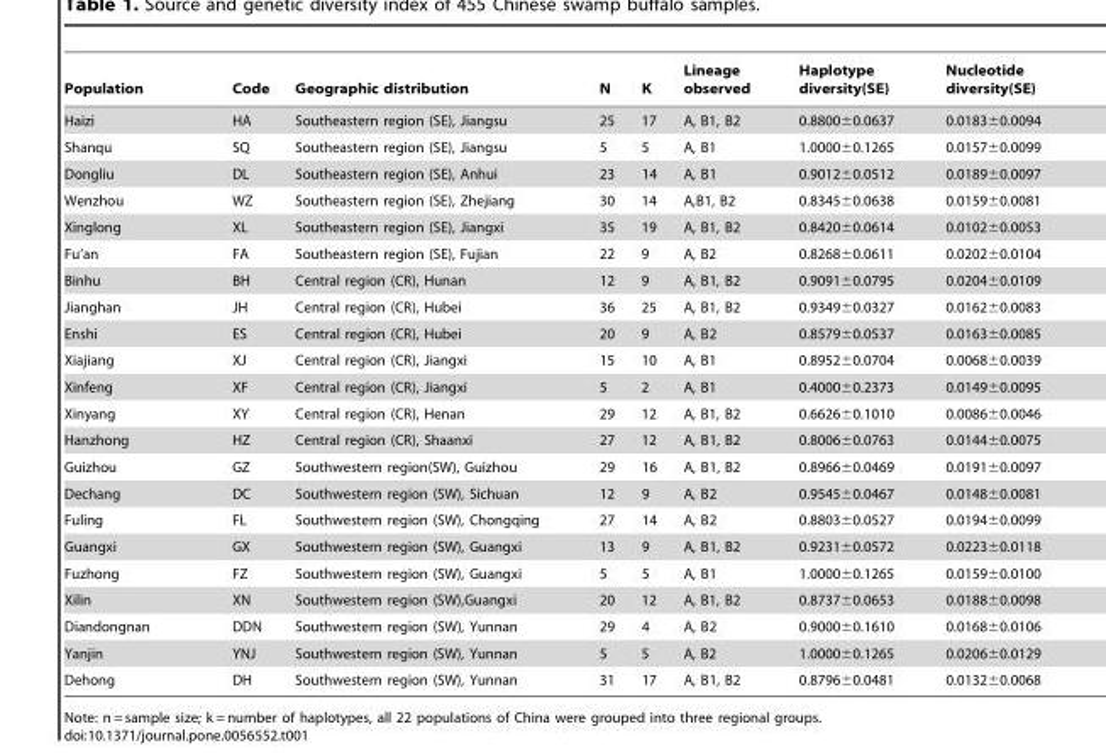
<table><thead><tr><td>Population</td><td>Code</td><td>Geographic distribution</td><td>N</td><td>K</td><td>Lineage observed</td><td>Haplotype diversity(SE)</td><td>Nucleotide diversity(SE)</td></tr></thead><tbody><tr><td>Haizi</td><td>HA</td><td>Southeastern region (SE), Jiangsu</td><td>25</td><td>17</td><td>A, B1, B2</td><td>0.8800±0.0637</td><td>0.0183±0.0094</td></tr><tr><td>Shanqu</td><td>SQ</td><td>Southeastern region (SE), Jiangsu</td><td>5</td><td>5</td><td>A, B1</td><td>1.0000±0.1265</td><td>0.0157±0.0099</td></tr><tr><td>Dongliu</td><td>DL</td><td>Southeastern region (SE), Anhui</td><td>23</td><td>14</td><td>A, B1</td><td>0.9012±0.0512</td><td>0.0189±0.0097</td></tr><tr><td>Wenzhou</td><td>WZ</td><td>Southeastern region (SE), Zhejiang</td><td>30</td><td>14</td><td>A,B1, B2</td><td>0.8345±0.0638</td><td>0.0159±0.0081</td></tr><tr><td>Xinglong</td><td>XL</td><td>Southeastern region (SE), Jiangxi</td><td>35</td><td>19</td><td>A, B1, B2</td><td>0.8420±0.0614</td><td>0.0102±0.0053</td></tr><tr><td>Fu’an</td><td>FA</td><td>Southeastern region (SE), Fujian</td><td>22</td><td>9</td><td>A, B2</td><td>0.8268±0.0611</td><td>0.0202±0.0104</td></tr><tr><td>Binhu</td><td>BH</td><td>Central region (CR), Hunan</td><td>12</td><td>9</td><td>A, B1, B2</td><td>0.9091±0.0795</td><td>0.0204±0.0109</td></tr><tr><td>Jianghan</td><td>JH</td><td>Central region (CR), Hubei</td><td>36</td><td>25</td><td>A, B1, B2</td><td>0.9349±0.0327</td><td>0.0162±0.0083</td></tr><tr><td>Enshi</td><td>ES</td><td>Central region (CR), Hubei</td><td>20</td><td>9</td><td>A, B2</td><td>0.8579±0.0537</td><td>0.0163±0.0085</td></tr><tr><td>Xiajiang</td><td>XJ</td><td>Central region (CR), Jiangxi</td><td>15</td><td>10</td><td>A, B1</td><td>0.8952±0.0704</td><td>0.0068±0.0039</td></tr><tr><td>Xinfeng</td><td>XF</td><td>Central region (CR), Jiangxi</td><td>5</td><td>2</td><td>A, B1</td><td>0.4000±0.2373</td><td>0.0149±0.0095</td></tr><tr><td>Xinyang</td><td>XY</td><td>Central region (CR), Henan</td><td>29</td><td>12</td><td>A, B1, B2</td><td>0.6626±0.1010</td><td>0.0086±0.0046</td></tr><tr><td>Hanzhong</td><td>HZ</td><td>Central region (CR), Shaanxi</td><td>27</td><td>12</td><td>A, B1, B2</td><td>0.8006±0.0763</td><td>0.0144±0.0075</td></tr><tr><td>Guizhou</td><td>GZ</td><td>Southwestern region(SW), Guizhou</td><td>29</td><td>16</td><td>A, B1, B2</td><td>0.8966±0.0469</td><td>0.0191±0.0097</td></tr><tr><td>Dechang</td><td>DC</td><td>Southwestern region (SW), Sichuan</td><td>12</td><td>9</td><td>A, B2</td><td>0.9545±0.0467</td><td>0.0148±0.0081</td></tr><tr><td>Fuling</td><td>FL</td><td>Southwestern region (SW), Chongqing</td><td>27</td><td>14</td><td>A, B2</td><td>0.8803±0.0527</td><td>0.0194±0.0099</td></tr><tr><td>Guangxi</td><td>GX</td><td>Southwestern region (SW), Guangxi</td><td>13</td><td>9</td><td>A, B1, B2</td><td>0.9231±0.0572</td><td>0.0223±0.0118</td></tr><tr><td>Fuzhong</td><td>FZ</td><td>Southwestern region (SW), Guangxi</td><td>5</td><td>5</td><td>A, B1</td><td>1.0000±0.1265</td><td>0.0159±0.0100</td></tr><tr><td>Xilin</td><td>XN</td><td>Southwestern region (SW),Guangxi</td><td>20</td><td>12</td><td>A, B1, B2</td><td>0.8737±0.0653</td><td>0.0188±0.0098</td></tr><tr><td>Diandongnan</td><td>DDN</td><td>Southwestern region (SW), Yunnan</td><td>29</td><td>4</td><td>A, B2</td><td>0.9000±0.1610</td><td>0.0168±0.0106</td></tr><tr><td>Yanjin</td><td>YNJ</td><td>Southwestern region (SW), Yunnan</td><td>5</td><td>5</td><td>A, B2</td><td>1.0000±0.1265</td><td>0.0206±0.0129</td></tr><tr><td>Dehong</td><td>DH</td><td>Southwestern region (SW), Yunnan</td><td>31</td><td>17</td><td>A, B1, B2</td><td>0.8796±0.0481</td><td>0.0132±0.0068</td></tr></tbody></table>